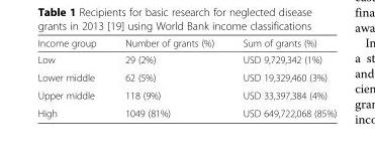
<table><thead><tr><td>Income group</td><td>Number of grants (%)</td><td>Sum of grants (%)</td></tr></thead><tbody><tr><td>Low</td><td>29 (2%)</td><td>USD 9,729,342 (1%)</td></tr><tr><td>Lower middle</td><td>62 (5%)</td><td>USD 19,329,460 (3%)</td></tr><tr><td>Upper middle</td><td>118 (9%)</td><td>USD 33,397,384 (4%)</td></tr><tr><td>High</td><td>1049 (81%)</td><td>USD 649,722,068 (85%)</td></tr></tbody></table>